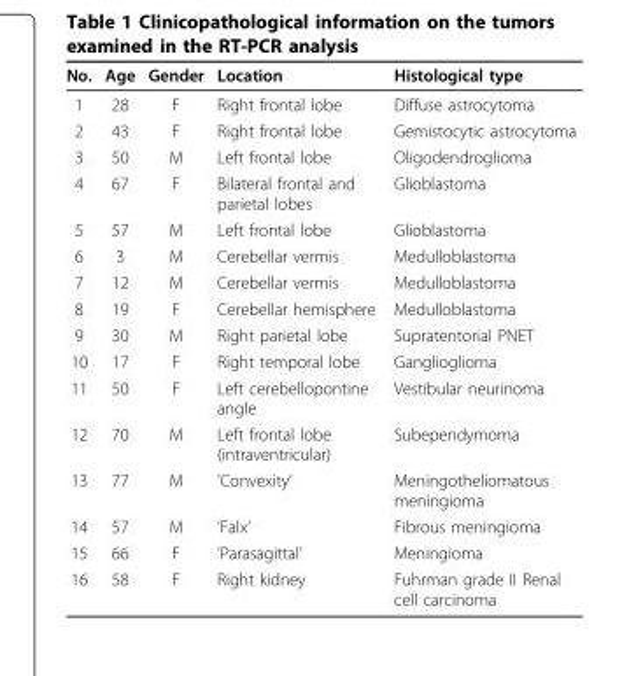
<table><thead><tr><td>No.</td><td>Age</td><td>Gender</td><td>Location</td><td>Histological type</td></tr></thead><tbody><tr><td>1</td><td>28</td><td>F</td><td>Right frontal lobe</td><td>Diffuse astrocytoma</td></tr><tr><td>2</td><td>43</td><td>F</td><td>Right frontal lobe</td><td>Gemistocytic astrocytoma</td></tr><tr><td>3</td><td>50</td><td>M</td><td>Left frontal lobe</td><td>Oligodendroglioma</td></tr><tr><td>4</td><td>67</td><td>F</td><td>Bilateral frontal and parietal lobes</td><td>Glioblastoma</td></tr><tr><td>5</td><td>57</td><td>M</td><td>Left frontal lobe</td><td>Glioblastoma</td></tr><tr><td>6</td><td>3</td><td>M</td><td>Cerebellar vermis</td><td>Medulloblastoma</td></tr><tr><td>7</td><td>12</td><td>M</td><td>Cerebellar vermis</td><td>Medulloblastoma</td></tr><tr><td>8</td><td>19</td><td>F</td><td>Cerebellar hemisphere</td><td>Medulloblastoma</td></tr><tr><td>9</td><td>30</td><td>M</td><td>Right parietal lobe</td><td>Supratentorial PNET</td></tr><tr><td>10</td><td>17</td><td>F</td><td>Right temporal lobe</td><td>Ganglioglioma</td></tr><tr><td>11</td><td>50</td><td>F</td><td>Left cerebellopontine angle</td><td>Vestibular neurinoma</td></tr><tr><td>12</td><td>70</td><td>M</td><td>Left frontal lobe (intraventricular)</td><td>Subependymoma</td></tr><tr><td>13</td><td>77</td><td>M</td><td>’Convexity’</td><td>Meningotheliomatous meningioma</td></tr><tr><td>14</td><td>57</td><td>M</td><td>’Falx’</td><td>Fibrous meningioma</td></tr><tr><td>15</td><td>66</td><td>F</td><td>’Parasagittal’</td><td>Meningioma</td></tr><tr><td>16</td><td>58</td><td>F</td><td>Right kidney</td><td>Fuhrman grade II Renal cell carcinoma</td></tr></tbody></table>